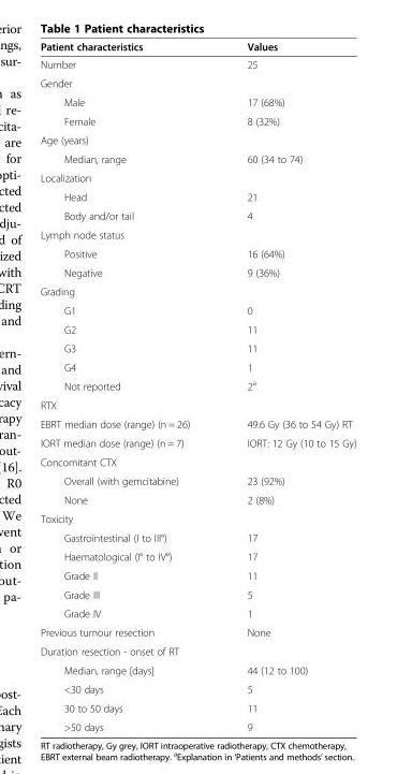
<table><thead><tr><td>Patient characteristics</td><td>Values</td></tr></thead><tbody><tr><td>Number</td><td>25</td></tr><tr><td colspan="2">Gender</td></tr><tr><td>Male</td><td>17 (68%)</td></tr><tr><td>Female</td><td>8 (32%)</td></tr><tr><td colspan="2">Age (years)</td></tr><tr><td>Median, range</td><td>60 (34 to 74)</td></tr><tr><td colspan="2">Localization</td></tr><tr><td>Head</td><td>21</td></tr><tr><td>Body and/or tail</td><td>4</td></tr><tr><td colspan="2">Lymph node status</td></tr><tr><td>Positive</td><td>16 (64%)</td></tr><tr><td>Negative</td><td>9 (36%)</td></tr><tr><td colspan="2">Grading</td></tr><tr><td>G1</td><td>0</td></tr><tr><td>G2</td><td>11</td></tr><tr><td>G3</td><td>11</td></tr><tr><td>G4</td><td>1</td></tr><tr><td>Not reported</td><td>2<sup>a</sup></td></tr><tr><td colspan="2">RTX</td></tr><tr><td>EBRT median dose (range) (n = 26)</td><td>49.6 Gy (36 to 54 Gy) RT</td></tr><tr><td>IORT median dose (range) (n = 7)</td><td>IORT: 12 Gy (10 to 15 Gy)</td></tr><tr><td colspan="2">Concomitant CTX</td></tr><tr><td>Overall (with gemcitabine)</td><td>23 (92%)</td></tr><tr><td>None</td><td>2 (8%)</td></tr><tr><td colspan="2">Toxicity</td></tr><tr><td>Gastrointestinal (I to III°)</td><td>17</td></tr><tr><td>Haematological (I° to IV°)</td><td>17</td></tr><tr><td>Grade II</td><td>11</td></tr><tr><td>Grade III</td><td>5</td></tr><tr><td>Grade IV</td><td>1</td></tr><tr><td>Previous tumour resection</td><td>None</td></tr><tr><td colspan="2">Duration resection - onset of RT</td></tr><tr><td>Median, range [days]</td><td>44 (12 to 100)</td></tr><tr><td>&lt;30 days</td><td>5</td></tr><tr><td>30 to 50 days</td><td>11</td></tr><tr><td>&gt;50 days</td><td>9</td></tr></tbody></table>